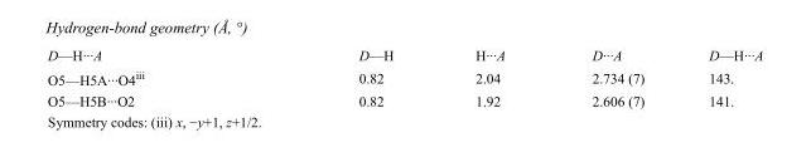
<table><tbody><tr><td>D—H···A</td><td>D—H</td><td>H···A</td><td>D···A</td><td>D—H···A</td></tr><tr><td>O5—H5A···O4<sup>iii</sup></td><td>0.82</td><td>2.04</td><td>2.734 (7)</td><td>143.</td></tr><tr><td>O5—H5B···O2</td><td>0.82</td><td>1.92</td><td>2.606 (7)</td><td>141.</td></tr></tbody></table>